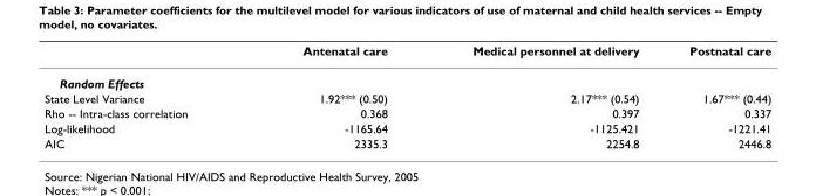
<table><thead><tr><td></td><td>Antenatal care</td><td>Medical personnel at delivery</td><td>Postnatal care</td></tr></thead><tbody><tr><td colspan="4">Random Effects</td></tr><tr><td>State Level Variance</td><td>1.92*** (0.50)</td><td>2.17*** (0.54)</td><td>1.67*** (0.44)</td></tr><tr><td>Rho -- Intra-class correlation</td><td>0.368</td><td>0.397</td><td>0.337</td></tr><tr><td>Log-likelihood</td><td>-1165.64</td><td>-1125.421</td><td>-1221.41</td></tr><tr><td>AIC</td><td>2335.3</td><td>2254.8</td><td>2446.8</td></tr></tbody></table>